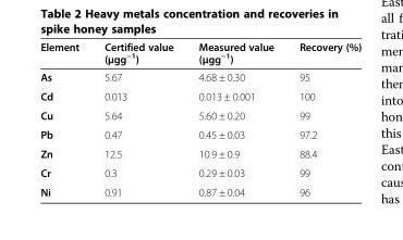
<table><thead><tr><td>Element</td><td>Certified value (μgg<sup>−1</sup>)</td><td>Measured value (μgg<sup>−1</sup>)</td><td>Recovery (%)</td></tr></thead><tbody><tr><td>As</td><td>5.67</td><td>4.68 ± 0.30</td><td>95</td></tr><tr><td>Cd</td><td>0.013</td><td>0.013 ± 0.001</td><td>100</td></tr><tr><td>Cu</td><td>5.64</td><td>5.60 ± 0.20</td><td>99</td></tr><tr><td>Pb</td><td>0.47</td><td>0.45 ± 0.03</td><td>97.2</td></tr><tr><td>Zn</td><td>12.5</td><td>10.9 ± 0.9</td><td>88.4</td></tr><tr><td>Cr</td><td>0.3</td><td>0.29 ± 0.03</td><td>99</td></tr><tr><td>Ni</td><td>0.91</td><td>0.87 ± 0.04</td><td>96</td></tr></tbody></table>